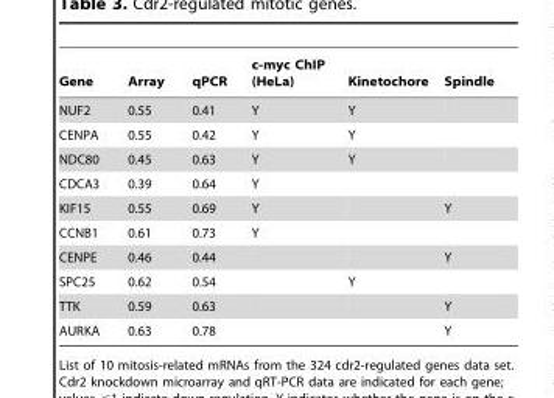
<table><thead><tr><td>Gene</td><td>Array</td><td>qPCR</td><td>c-myc ChIP (HeLa)</td><td>Kinetochore</td><td>Spindle</td></tr></thead><tbody><tr><td>NUF2</td><td>0.55</td><td>0.41</td><td>Y</td><td>Y</td><td></td></tr><tr><td>CENPA</td><td>0.55</td><td>0.42</td><td>Y</td><td>Y</td><td></td></tr><tr><td>NDC80</td><td>0.45</td><td>0.63</td><td>Y</td><td>Y</td><td></td></tr><tr><td>CDCA3</td><td>0.39</td><td>0.64</td><td>Y</td><td></td><td></td></tr><tr><td>KIF15</td><td>0.55</td><td>0.69</td><td>Y</td><td></td><td>Y</td></tr><tr><td>CCNB1</td><td>0.61</td><td>0.73</td><td>Y</td><td></td><td></td></tr><tr><td>CENPE</td><td>0.46</td><td>0.44</td><td></td><td></td><td>Y</td></tr><tr><td>SPC25</td><td>0.62</td><td>0.54</td><td></td><td>Y</td><td></td></tr><tr><td>TTK</td><td>0.59</td><td>0.63</td><td></td><td></td><td>Y</td></tr><tr><td>AURKA</td><td>0.63</td><td>0.78</td><td></td><td></td><td>Y</td></tr></tbody></table>